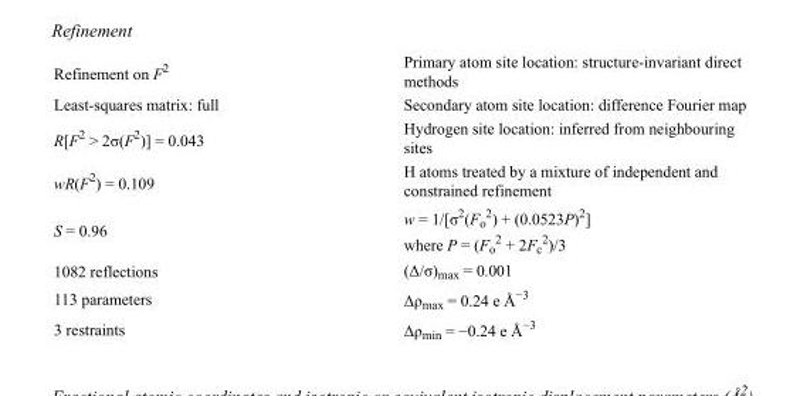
<table><tbody><tr><td>Refinement on F<sup>2</sup></td><td>Primary atom site location: structure-invariant direct methods</td></tr><tr><td>Least-squares matrix: full</td><td>Secondary atom site location: difference Fourier map</td></tr><tr><td>R[F<sup>2</sup> &gt; 2σ(F<sup>2</sup>)] = 0.043</td><td>Hydrogen site location: inferred from neighbouring sites</td></tr><tr><td>wR(F<sup>2</sup>) = 0.109</td><td>H atoms treated by a mixture of independent and constrained refinement</td></tr><tr><td>S = 0.96</td><td>w = 1/[σ<sup>2</sup>(F<sub>o</sub> <sup>2</sup>) + (0.0523P)<sup>2</sup>] where P = (F<sub>o</sub> <sup>2</sup> + 2F<sub>c</sub> <sup>2</sup>)/3</td></tr><tr><td>1082 reflections</td><td>(Δ/σ)<sub>max</sub> = 0.001</td></tr><tr><td>113 parameters</td><td>Δρ<sub>max</sub> = 0.24 e Å<sup>−3</sup></td></tr><tr><td>3 restraints</td><td>Δρ<sub>min</sub> = −0.24 e Å<sup>−3</sup></td></tr></tbody></table>